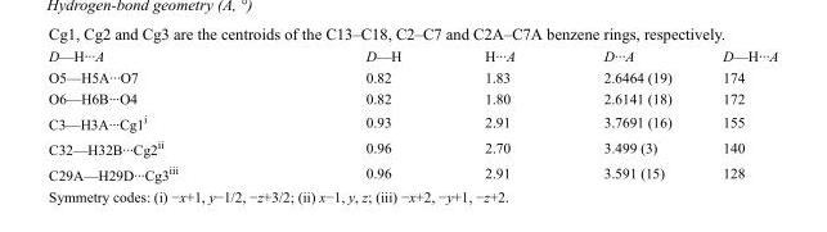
<table><tbody><tr><td>D—H···A</td><td>D—H</td><td>H···A</td><td>D···A</td><td>D—H···A</td></tr><tr><td>O5—H5A···O7</td><td>0.82</td><td>1.83</td><td>2.6464 (19)</td><td>174</td></tr><tr><td>O6—H6B···O4</td><td>0.82</td><td>1.80</td><td>2.6141 (18)</td><td>172</td></tr><tr><td>C3—H3A···Cg1<sup>i</sup></td><td>0.93</td><td>2.91</td><td>3.7691 (16)</td><td>155</td></tr><tr><td>C32—H32B···Cg2<sup>ii</sup></td><td>0.96</td><td>2.70</td><td>3.499 (3)</td><td>140</td></tr><tr><td>C29A—H29D···Cg3<sup>iii</sup></td><td>0.96</td><td>2.91</td><td>3.591 (15)</td><td>128</td></tr></tbody></table>